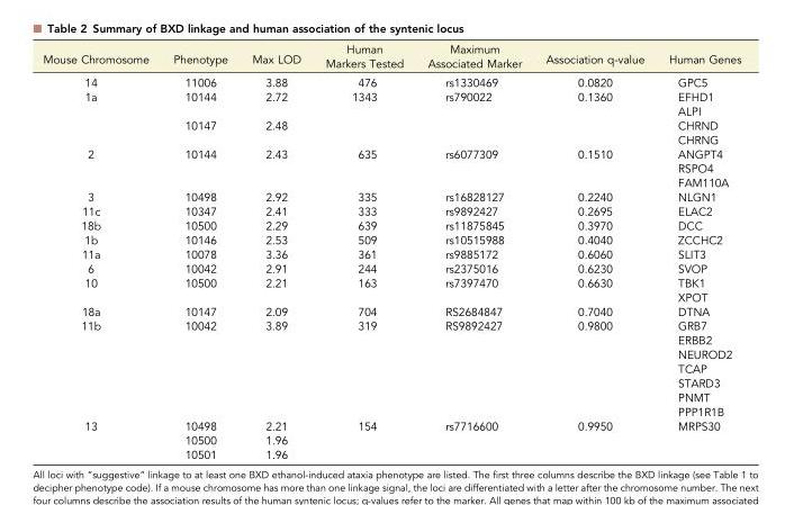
<table><thead><tr><td>Mouse Chromosome</td><td>Phenotype</td><td>Max LOD</td><td>Human Markers Tested</td><td>Maximum Associated Marker</td><td>Association q-value</td><td>Human Genes</td></tr></thead><tbody><tr><td>14</td><td>11006</td><td>3.88</td><td>476</td><td>rs1330469</td><td>0.0820</td><td>GPC5</td></tr><tr><td rowspan="4">1a</td><td rowspan="2">10144</td><td rowspan="2">2.72</td><td rowspan="4">1343</td><td rowspan="4">rs790022</td><td rowspan="4">0.1360</td><td>EFHD1</td></tr><tr><td>ALPI</td></tr><tr><td rowspan="2">10147</td><td rowspan="2">2.48</td><td>CHRND</td></tr><tr><td>CHRNG</td></tr><tr><td rowspan="3">2</td><td rowspan="3">10144</td><td rowspan="3">2.43</td><td rowspan="3">635</td><td rowspan="3">rs6077309</td><td rowspan="3">0.1510</td><td>ANGPT4</td></tr><tr><td>RSPO4</td></tr><tr><td>FAM110A</td></tr><tr><td>3</td><td>10498</td><td>2.92</td><td>335</td><td>rs16828127</td><td>0.2240</td><td>NLGN1</td></tr><tr><td>11c</td><td>10347</td><td>2.41</td><td>333</td><td>rs9892427</td><td>0.2695</td><td>ELAC2</td></tr><tr><td>18b</td><td>10500</td><td>2.29</td><td>639</td><td>rs11875845</td><td>0.3970</td><td>DCC</td></tr><tr><td>1b</td><td>10146</td><td>2.53</td><td>509</td><td>rs10515988</td><td>0.4040</td><td>ZCCHC2</td></tr><tr><td>11a</td><td>10078</td><td>3.36</td><td>361</td><td>rs9885172</td><td>0.6060</td><td>SLIT3</td></tr><tr><td>6</td><td>10042</td><td>2.91</td><td>244</td><td>rs2375016</td><td>0.6230</td><td>SVOP</td></tr><tr><td rowspan="2">10</td><td rowspan="2">10500</td><td rowspan="2">2.21</td><td rowspan="2">163</td><td rowspan="2">rs7397470</td><td rowspan="2">0.6630</td><td>TBK1</td></tr><tr><td>XPOT</td></tr><tr><td>18a</td><td>10147</td><td>2.09</td><td>704</td><td>RS2684847</td><td>0.7040</td><td>DTNA</td></tr><tr><td rowspan="7">11b</td><td rowspan="7">10042</td><td rowspan="7">3.89</td><td rowspan="7">319</td><td rowspan="7">RS9892427</td><td rowspan="7">0.9800</td><td>GRB7</td></tr><tr><td>ERBB2</td></tr><tr><td>NEUROD2</td></tr><tr><td>TCAP</td></tr><tr><td>STARD3</td></tr><tr><td>PNMT</td></tr><tr><td>PPP1R1B</td></tr><tr><td rowspan="3">13</td><td>10498</td><td>2.21</td><td rowspan="3">154</td><td rowspan="3">rs7716600</td><td rowspan="3">0.9950</td><td rowspan="3">MRPS30</td></tr><tr><td>10500</td><td>1.96</td></tr><tr><td>10501</td><td>1.96</td></tr></tbody></table>